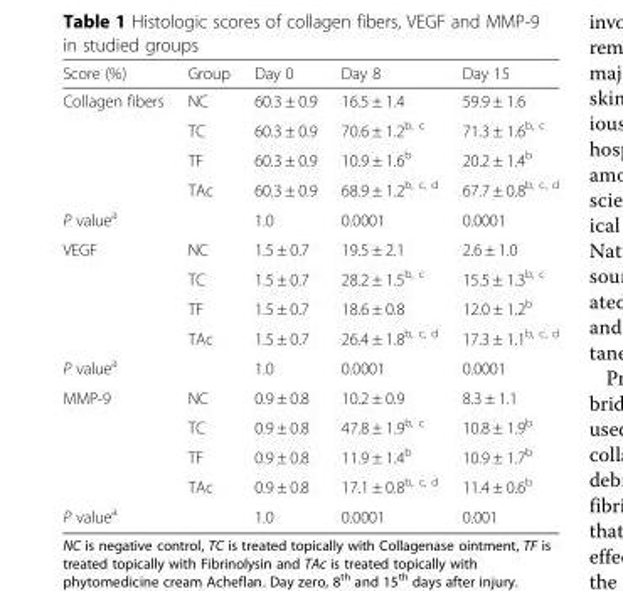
<table><thead><tr><td>Score (%)</td><td>Group</td><td>Day 0</td><td>Day 8</td><td>Day 15</td></tr></thead><tbody><tr><td rowspan="4">Collagen fibers</td><td>NC</td><td>60.3 ± 0.9</td><td>16.5 ± 1.4</td><td>59.9 ± 1.6</td></tr><tr><td>TC</td><td>60.3 ± 0.9</td><td>70.6 ± 1.2<sup>b, c</sup></td><td>71.3 ± 1.6<sup>b, c</sup></td></tr><tr><td>TF</td><td>60.3 ± 0.9</td><td>10.9 ± 1.6<sup>b</sup></td><td>20.2 ± 1.4<sup>b</sup></td></tr><tr><td>TAc</td><td>60.3 ± 0.9</td><td>68.9 ± 1.2<sup>b, c, d</sup></td><td>67.7 ± 0.8<sup>b, c, d</sup></td></tr><tr><td colspan="2">P value<sup>a</sup></td><td>1.0</td><td>0.0001</td><td>0.0001</td></tr><tr><td rowspan="4">VEGF</td><td>NC</td><td>1.5 ± 0.7</td><td>19.5 ± 2.1</td><td>2.6 ± 1.0</td></tr><tr><td>TC</td><td>1.5 ± 0.7</td><td>28.2 ± 1.5<sup>b, c</sup></td><td>15.5 ± 1.3<sup>b, c</sup></td></tr><tr><td>TF</td><td>1.5 ± 0.7</td><td>18.6 ± 0.8</td><td>12.0 ± 1.2<sup>b</sup></td></tr><tr><td>TAc</td><td>1.5 ± 0.7</td><td>26.4 ± 1.8<sup>b, c, d</sup></td><td>17.3 ± 1.1<sup>b, c, d</sup></td></tr><tr><td colspan="2">P value<sup>a</sup></td><td>1.0</td><td>0.0001</td><td>0.0001</td></tr><tr><td rowspan="4">MMP-9</td><td>NC</td><td>0.9 ± 0.8</td><td>10.2 ± 0.9</td><td>8.3 ± 1.1</td></tr><tr><td>TC</td><td>0.9 ± 0.8</td><td>47.8 ± 1.9<sup>b, c</sup></td><td>10.8 ± 1.9<sup>b</sup></td></tr><tr><td>TF</td><td>0.9 ± 0.8</td><td>11.9 ± 1.4<sup>b</sup></td><td>10.9 ± 1.7<sup>b</sup></td></tr><tr><td>TAc</td><td>0.9 ± 0.8</td><td>17.1 ± 0.8<sup>b, c, d</sup></td><td>11.4 ± 0.6<sup>b</sup></td></tr><tr><td colspan="2">P value<sup>a</sup></td><td>1.0</td><td>0.0001</td><td>0.001</td></tr></tbody></table>